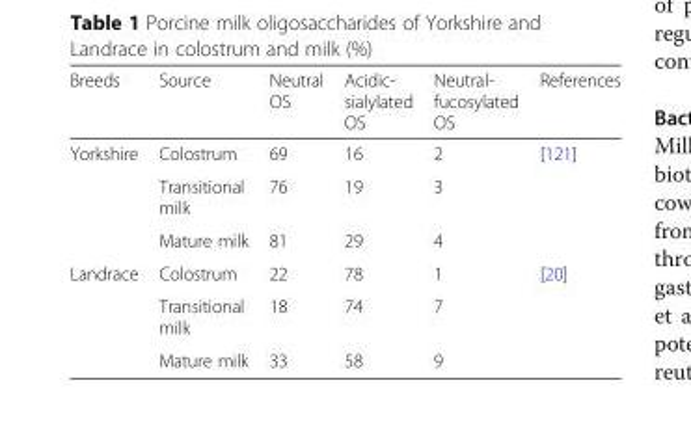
<table><thead><tr><td>Breeds</td><td>Source</td><td>Neutral OS</td><td>Acidic- sialylated OS</td><td>Neutral- fucosylated OS</td><td>References</td></tr></thead><tbody><tr><td rowspan="3">Yorkshire</td><td>Colostrum</td><td>69</td><td>16</td><td>2</td><td rowspan="3">[121]</td></tr><tr><td>Transitional milk</td><td>76</td><td>19</td><td>3</td></tr><tr><td>Mature milk</td><td>81</td><td>29</td><td>4</td></tr><tr><td rowspan="3">Landrace</td><td>Colostrum</td><td>22</td><td>78</td><td>1</td><td rowspan="3">[20]</td></tr><tr><td>Transitional milk</td><td>18</td><td>74</td><td>7</td></tr><tr><td>Mature milk</td><td>33</td><td>58</td><td>9</td></tr></tbody></table>